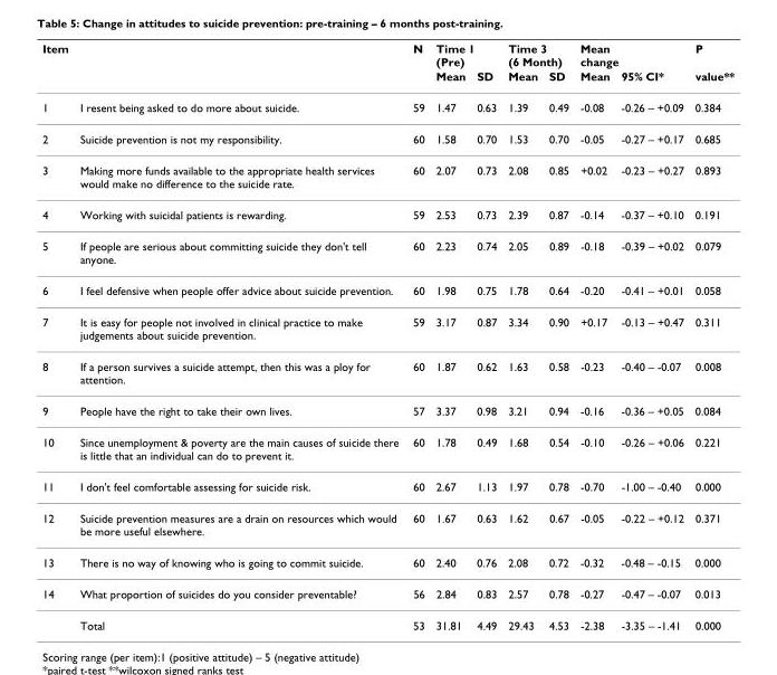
<table><thead><tr><td rowspan="2">Item</td><td rowspan="2"></td><td rowspan="2">N</td><td colspan="2">Time 1 (Pre)</td><td colspan="2">Time 3 (6 Month)</td><td colspan="2">Mean change</td><td rowspan="2">P value**</td></tr><tr><td>Mean</td><td>SD</td><td>Mean</td><td>SD</td><td>Mean</td><td>95% CI*</td></tr></thead><tbody><tr><td>1</td><td>I resent being asked to do more about suicide.</td><td>59</td><td>1.47</td><td>0.63</td><td>1.39</td><td>0.49</td><td>-0.08</td><td>-0.26 – +0.09</td><td>0.384</td></tr><tr><td>2</td><td>Suicide prevention is not my responsibility.</td><td>60</td><td>1.58</td><td>0.70</td><td>1.53</td><td>0.70</td><td>-0.05</td><td>-0.27 – +0.17</td><td>0.685</td></tr><tr><td>3</td><td>Making more funds available to the appropriate health services would make no difference to the suicide rate.</td><td>60</td><td>2.07</td><td>0.73</td><td>2.08</td><td>0.85</td><td>+0.02</td><td>-0.23 – +0.27</td><td>0.893</td></tr><tr><td>4</td><td>Working with suicidal patients is rewarding.</td><td>59</td><td>2.53</td><td>0.73</td><td>2.39</td><td>0.87</td><td>-0.14</td><td>-0.37 – +0.10</td><td>0.191</td></tr><tr><td>5</td><td>If people are serious about committing suicide they don&#x27;t tell anyone.</td><td>60</td><td>2.23</td><td>0.74</td><td>2.05</td><td>0.89</td><td>-0.18</td><td>-0.39 – +0.02</td><td>0.079</td></tr><tr><td>6</td><td>I feel defensive when people offer advice about suicide prevention.</td><td>60</td><td>1.98</td><td>0.75</td><td>1.78</td><td>0.64</td><td>-0.20</td><td>-0.41 – +0.01</td><td>0.058</td></tr><tr><td>7</td><td>It is easy for people not involved in clinical practice to make judgements about suicide prevention.</td><td>59</td><td>3.17</td><td>0.87</td><td>3.34</td><td>0.90</td><td>+0.17</td><td>-0.13 – +0.47</td><td>0.311</td></tr><tr><td>8</td><td>If a person survives a suicide attempt, then this was a ploy for attention.</td><td>60</td><td>1.87</td><td>0.62</td><td>1.63</td><td>0.58</td><td>-0.23</td><td>-0.40 – -0.07</td><td>0.008</td></tr><tr><td>9</td><td>People have the right to take their own lives.</td><td>57</td><td>3.37</td><td>0.98</td><td>3.21</td><td>0.94</td><td>-0.16</td><td>-0.36 – +0.05</td><td>0.084</td></tr><tr><td>10</td><td>Since unemployment &amp; poverty are the main causes of suicide there is little that an individual can do to prevent it.</td><td>60</td><td>1.78</td><td>0.49</td><td>1.68</td><td>0.54</td><td>-0.10</td><td>-0.26 – +0.06</td><td>0.221</td></tr><tr><td>11</td><td>I don&#x27;t feel comfortable assessing for suicide risk.</td><td>60</td><td>2.67</td><td>1.13</td><td>1.97</td><td>0.78</td><td>-0.70</td><td>-1.00 – -0.40</td><td>0.000</td></tr><tr><td>12</td><td>Suicide prevention measures are a drain on resources which would be more useful elsewhere.</td><td>60</td><td>1.67</td><td>0.63</td><td>1.62</td><td>0.67</td><td>-0.05</td><td>-0.22 – +0.12</td><td>0.371</td></tr><tr><td>13</td><td>There is no way of knowing who is going to commit suicide.</td><td>60</td><td>2.40</td><td>0.76</td><td>2.08</td><td>0.72</td><td>-0.32</td><td>-0.48 – -0.15</td><td>0.000</td></tr><tr><td rowspan="2">14</td><td>What proportion of suicides do you consider preventable?</td><td>56</td><td>2.84</td><td>0.83</td><td>2.57</td><td>0.78</td><td>-0.27</td><td>-0.47 – -0.07</td><td>0.013</td></tr><tr><td>Total</td><td>53</td><td>31.81</td><td>4.49</td><td>29.43</td><td>4.53</td><td>-2.38</td><td>-3.35 – -1.41</td><td>0.000</td></tr></tbody></table>